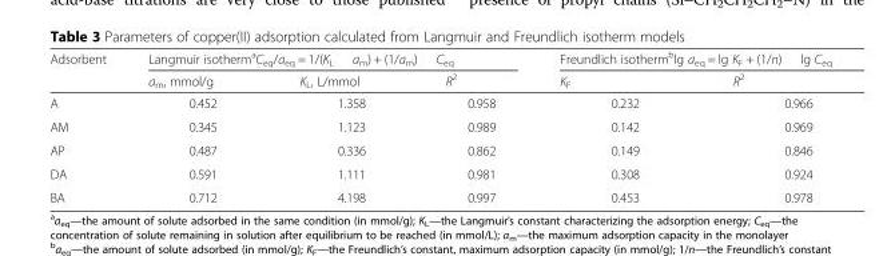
<table><thead><tr><td rowspan="2">Adsorbent</td><td colspan="3">Langmuir isothermaCeq/aeq = 1/(KL am) + (1/am) Ceq</td><td colspan="2">Freundlich isothermblg aeq = lg KF + (1/n) lg Ceq</td></tr><tr><td>a<sub>m</sub>, mmol/g</td><td>K<sub>L</sub>, L/mmol</td><td>R<sup>2</sup></td><td>K<sub>F</sub></td><td>R<sup>2</sup></td></tr></thead><tbody><tr><td>A</td><td>0.452</td><td>1.358</td><td>0.958</td><td>0.232</td><td>0.966</td></tr><tr><td>AM</td><td>0.345</td><td>1.123</td><td>0.989</td><td>0.142</td><td>0.969</td></tr><tr><td>AP</td><td>0.487</td><td>0.336</td><td>0.862</td><td>0.149</td><td>0.846</td></tr><tr><td>DA</td><td>0.591</td><td>1.111</td><td>0.981</td><td>0.308</td><td>0.924</td></tr><tr><td>BA</td><td>0.712</td><td>4.198</td><td>0.997</td><td>0.453</td><td>0.978</td></tr></tbody></table>